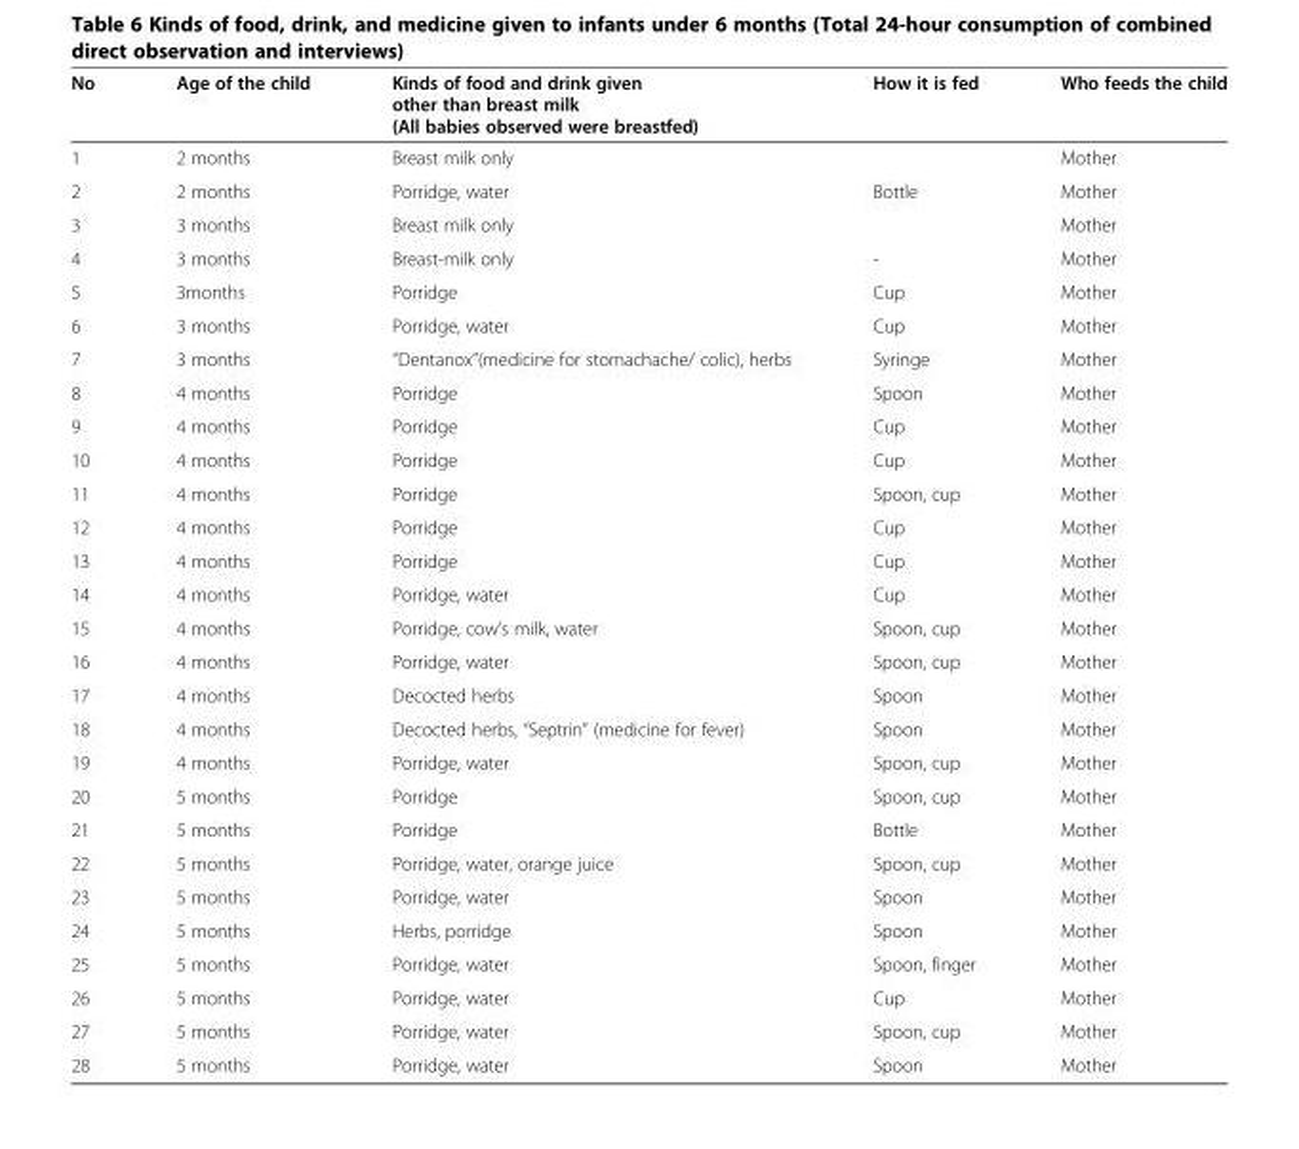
<table><thead><tr><td>No</td><td>Age of the child</td><td>Kinds of food and drink given other than breast milk (All babies observed were breastfed)</td><td>How it is fed</td><td>Who feeds the child</td></tr></thead><tbody><tr><td>1</td><td>2 months</td><td>Breast milk only</td><td></td><td>Mother</td></tr><tr><td>2</td><td>2 months</td><td>Porridge, water</td><td>Bottle</td><td>Mother</td></tr><tr><td>3</td><td>3 months</td><td>Breast milk only</td><td></td><td>Mother</td></tr><tr><td>4</td><td>3 months</td><td>Breast-milk only</td><td>-</td><td>Mother</td></tr><tr><td>5</td><td>3months</td><td>Porridge</td><td>Cup</td><td>Mother</td></tr><tr><td>6</td><td>3 months</td><td>Porridge, water</td><td>Cup</td><td>Mother</td></tr><tr><td>7</td><td>3 months</td><td>“Dentanox”(medicine for stomachache/ colic), herbs</td><td>Syringe</td><td>Mother</td></tr><tr><td>8</td><td>4 months</td><td>Porridge</td><td>Spoon</td><td>Mother</td></tr><tr><td>9</td><td>4 months</td><td>Porridge</td><td>Cup</td><td>Mother</td></tr><tr><td>10</td><td>4 months</td><td>Porridge</td><td>Cup</td><td>Mother</td></tr><tr><td>11</td><td>4 months</td><td>Porridge</td><td>Spoon, cup</td><td>Mother</td></tr><tr><td>12</td><td>4 months</td><td>Porridge</td><td>Cup</td><td>Mother</td></tr><tr><td>13</td><td>4 months</td><td>Porridge</td><td>Cup</td><td>Mother</td></tr><tr><td>14</td><td>4 months</td><td>Porridge, water</td><td>Cup</td><td>Mother</td></tr><tr><td>15</td><td>4 months</td><td>Porridge, cow’s milk, water</td><td>Spoon, cup</td><td>Mother</td></tr><tr><td>16</td><td>4 months</td><td>Porridge, water</td><td>Spoon, cup</td><td>Mother</td></tr><tr><td>17</td><td>4 months</td><td>Decocted herbs</td><td>Spoon</td><td>Mother</td></tr><tr><td>18</td><td>4 months</td><td>Decocted herbs, “Septrin” (medicine for fever)</td><td>Spoon</td><td>Mother</td></tr><tr><td>19</td><td>4 months</td><td>Porridge, water</td><td>Spoon, cup</td><td>Mother</td></tr><tr><td>20</td><td>5 months</td><td>Porridge</td><td>Spoon, cup</td><td>Mother</td></tr><tr><td>21</td><td>5 months</td><td>Porridge</td><td>Bottle</td><td>Mother</td></tr><tr><td>22</td><td>5 months</td><td>Porridge, water, orange juice</td><td>Spoon, cup</td><td>Mother</td></tr><tr><td>23</td><td>5 months</td><td>Porridge, water</td><td>Spoon</td><td>Mother</td></tr><tr><td>24</td><td>5 months</td><td>Herbs, porridge</td><td>Spoon</td><td>Mother</td></tr><tr><td>25</td><td>5 months</td><td>Porridge, water</td><td>Spoon, finger</td><td>Mother</td></tr><tr><td>26</td><td>5 months</td><td>Porridge, water</td><td>Cup</td><td>Mother</td></tr><tr><td>27</td><td>5 months</td><td>Porridge, water</td><td>Spoon, cup</td><td>Mother</td></tr><tr><td>28</td><td>5 months</td><td>Porridge, water</td><td>Spoon</td><td>Mother</td></tr></tbody></table>